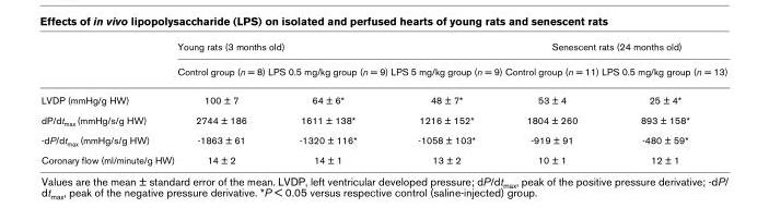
<table><thead><tr><td rowspan="2"></td><td colspan="3">Young rats (3 months old)</td><td colspan="2">Senescent rats (24 months old)</td></tr><tr><td>Control group (n = 8)</td><td>LPS 0.5 mg/kg group (n = 9)</td><td>LPS 5 mg/kg group (n = 9)</td><td>Control group (n = 11)</td><td>LPS 0.5 mg/kg group (n = 13)</td></tr></thead><tbody><tr><td>LVDP (mmHg/g HW)</td><td>100 ± 7</td><td>64 ± 6*</td><td>48 ± 7*</td><td>53 ± 4</td><td>25 ± 4*</td></tr><tr><td>dP/dtmax (mmHg/s/g HW)</td><td>2744 ± 186</td><td>1611 ± 138*</td><td>1216 ± 152*</td><td>1804 ± 260</td><td>893 ± 158*</td></tr><tr><td>-dP/dtmax (mmHg/s/g HW)</td><td>-1863 ± 61</td><td>-1320 ± 116*</td><td>-1058 ± 103*</td><td>-919 ± 91</td><td>-480 ± 59*</td></tr><tr><td>Coronary flow (ml/minute/g HW)</td><td>14 ± 2</td><td>14 ± 1</td><td>13 ± 2</td><td>10 ± 1</td><td>12 ± 1</td></tr></tbody></table>